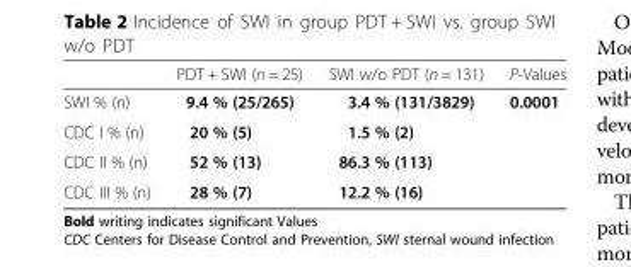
<table><thead><tr><td></td><td>PDT + SWI (n = 25)</td><td>SWI w/o PDT (n = 131)</td><td>P-Values</td></tr></thead><tbody><tr><td>SWI % (n)</td><td>9.4 % (25/265)</td><td>3.4 % (131/3829)</td><td rowspan="4">0.0001</td></tr><tr><td>CDC I % (n)</td><td>20 % (5)</td><td>1.5 % (2)</td></tr><tr><td>CDC II % (n)</td><td>52 % (13)</td><td>86.3 % (113)</td></tr><tr><td>CDC III % (n)</td><td>28 % (7)</td><td>12.2 % (16)</td></tr></tbody></table>